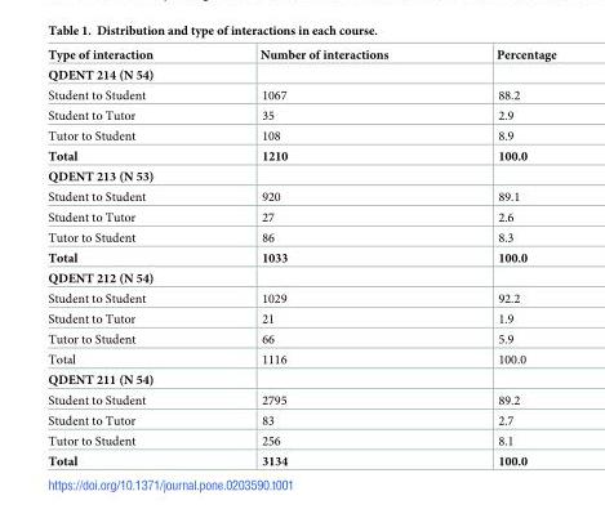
<table><thead><tr><td>Type of interaction</td><td>Number of interactions</td><td>Percentage</td></tr></thead><tbody><tr><td colspan="3">QDENT 214 (N 54)</td></tr><tr><td>Student to Student</td><td>1067</td><td>88.2</td></tr><tr><td>Student to Tutor</td><td>35</td><td>2.9</td></tr><tr><td>Tutor to Student</td><td>108</td><td>8.9</td></tr><tr><td>Total</td><td>1210</td><td>100.0</td></tr><tr><td colspan="3">QDENT 213 (N 53)</td></tr><tr><td>Student to Student</td><td>920</td><td>89.1</td></tr><tr><td>Student to Tutor</td><td>27</td><td>2.6</td></tr><tr><td>Tutor to Student</td><td>86</td><td>8.3</td></tr><tr><td>Total</td><td>1033</td><td>100.0</td></tr><tr><td colspan="3">QDENT 212 (N 54)</td></tr><tr><td>Student to Student</td><td>1029</td><td>92.2</td></tr><tr><td>Student to Tutor</td><td>21</td><td>1.9</td></tr><tr><td>Tutor to Student</td><td>66</td><td>5.9</td></tr><tr><td>Total</td><td>1116</td><td>100.0</td></tr><tr><td colspan="3">QDENT 211 (N 54)</td></tr><tr><td>Student to Student</td><td>2795</td><td>89.2</td></tr><tr><td>Student to Tutor</td><td>83</td><td>2.7</td></tr><tr><td>Tutor to Student</td><td>256</td><td>8.1</td></tr><tr><td>Total</td><td>3134</td><td>100.0</td></tr></tbody></table>